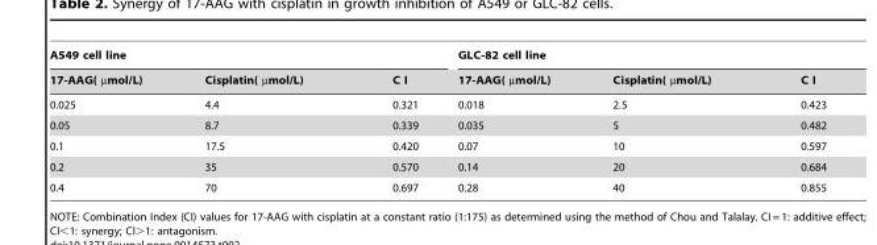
<table><thead><tr><td colspan="3">A549 cell line</td><td colspan="3">GLC-82 cell line</td></tr><tr><td>17-AAG( µmol/L)</td><td>Cisplatin( µmol/L)</td><td>C I</td><td>17-AAG( µmol/L)</td><td>Cisplatin( µmol/L)</td><td>C I</td></tr></thead><tbody><tr><td>0.025</td><td>4.4</td><td>0.321</td><td>0.018</td><td>2.5</td><td>0.423</td></tr><tr><td>0.05</td><td>8.7</td><td>0.339</td><td>0.035</td><td>5</td><td>0.482</td></tr><tr><td>0.1</td><td>17.5</td><td>0.420</td><td>0.07</td><td>10</td><td>0.597</td></tr><tr><td>0.2</td><td>35</td><td>0.570</td><td>0.14</td><td>20</td><td>0.684</td></tr><tr><td>0.4</td><td>70</td><td>0.697</td><td>0.28</td><td>40</td><td>0.855</td></tr></tbody></table>